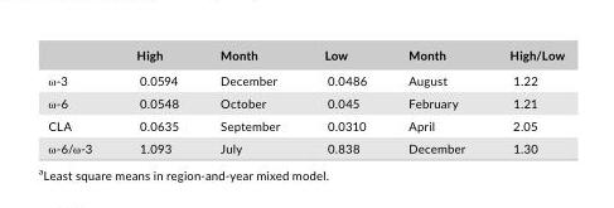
<table><thead><tr><td></td><td>High</td><td>Month</td><td>Low</td><td>Month</td><td>High/Low</td></tr></thead><tbody><tr><td>ω- 3</td><td>0.0594</td><td>December</td><td>0.0486</td><td>August</td><td>1.22</td></tr><tr><td>ω- 6</td><td>0.0548</td><td>October</td><td>0.045</td><td>February</td><td>1.21</td></tr><tr><td>CLA</td><td>0.0635</td><td>September</td><td>0.0310</td><td>April</td><td>2.05</td></tr><tr><td>ω- 6/ω- 3</td><td>1.093</td><td>July</td><td>0.838</td><td>December</td><td>1.30</td></tr></tbody></table>